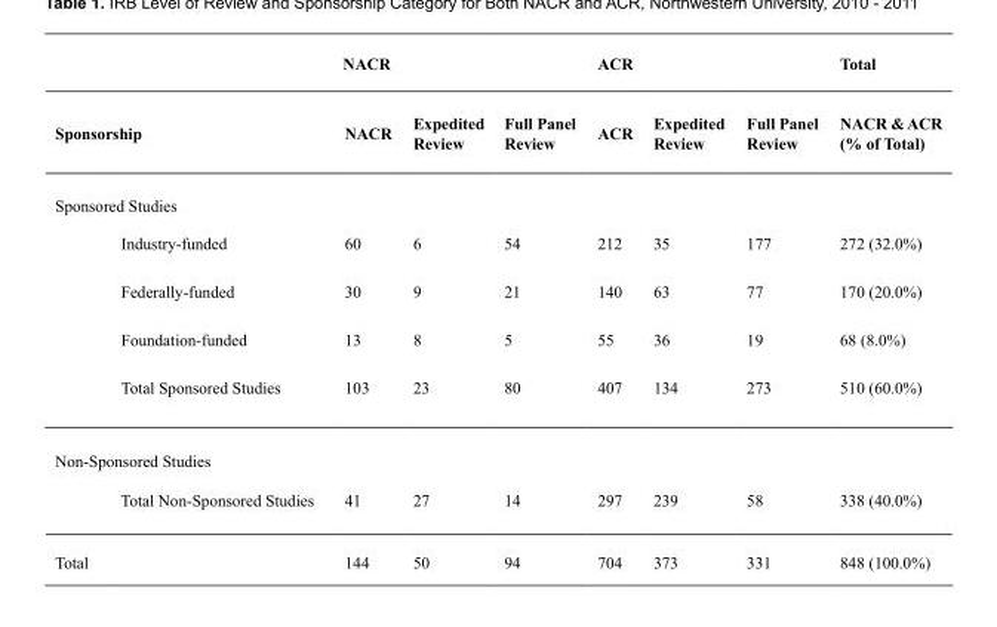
<table><thead><tr><td rowspan="2">Sponsorship</td><td rowspan="2">NACR NACR</td><td rowspan="2">Expedited Review</td><td rowspan="2">Full Panel Review</td><td rowspan="2">ACR ACR</td><td rowspan="2">Expedited Review</td><td rowspan="2">Full Panel Review</td><td rowspan="2">Total NACR &amp; ACR (% of Total)</td></tr><tr></tr></thead><tbody><tr><td colspan="8">Sponsored Studies</td></tr><tr><td>Industry-funded</td><td>60</td><td>6</td><td>54</td><td>212</td><td>35</td><td>177</td><td>272 (32.0%)</td></tr><tr><td>Federally-funded</td><td>30</td><td>9</td><td>21</td><td>140</td><td>63</td><td>77</td><td>170 (20.0%)</td></tr><tr><td>Foundation-funded</td><td>13</td><td>8</td><td>5</td><td>55</td><td>36</td><td>19</td><td>68 (8.0%)</td></tr><tr><td>Total Sponsored Studies</td><td>103</td><td>23</td><td>80</td><td>407</td><td>134</td><td>273</td><td>510 (60.0%)</td></tr><tr><td colspan="8">Non-Sponsored Studies</td></tr><tr><td>Total Non-Sponsored Studies</td><td>41</td><td>27</td><td>14</td><td>297</td><td>239</td><td>58</td><td>338 (40.0%)</td></tr><tr><td>Total</td><td>144</td><td>50</td><td>94</td><td>704</td><td>373</td><td>331</td><td>848 (100.0%)</td></tr></tbody></table>